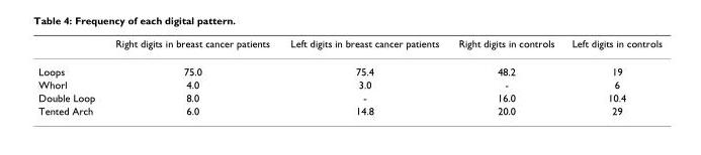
<table><thead><tr><td></td><td>Right digits in breast cancer patients</td><td>Left digits in breast cancer patients</td><td>Right digits in controls</td><td>Left digits in controls</td></tr></thead><tbody><tr><td>Loops</td><td>75.0</td><td>75.4</td><td>48.2</td><td>19</td></tr><tr><td>Whorl</td><td>4.0</td><td>3.0</td><td>-</td><td>6</td></tr><tr><td>Double Loop</td><td>8.0</td><td>-</td><td>16.0</td><td>10.4</td></tr><tr><td>Tented Arch</td><td>6.0</td><td>14.8</td><td>20.0</td><td>29</td></tr></tbody></table>